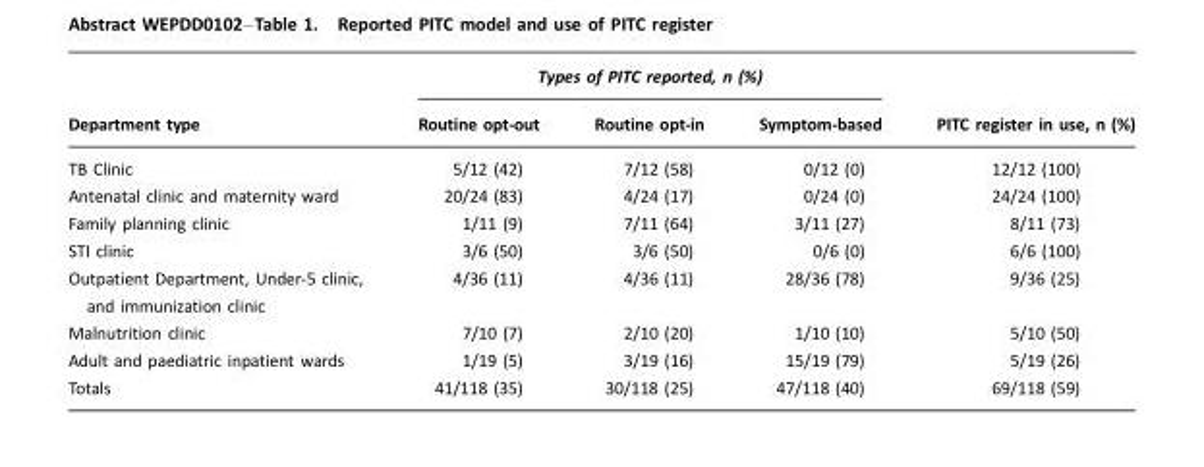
<table><thead><tr><td rowspan="2">Department type</td><td colspan="3">Types of PITC reported, n (%)</td><td rowspan="2">PITC register in use, n (%)</td></tr><tr><td>Routine opt-out</td><td>Routine opt-in</td><td>Symptom-based</td></tr></thead><tbody><tr><td>TB Clinic</td><td>5/12 (42)</td><td>7/12 (58)</td><td>0/12 (0)</td><td>12/12 (100)</td></tr><tr><td>Antenatal clinic and maternity ward</td><td>20/24 (83)</td><td>4/24 (17)</td><td>0/24 (0)</td><td>24/24 (100)</td></tr><tr><td>Family planning clinic</td><td>1/11 (9)</td><td>7/11 (64)</td><td>3/11 (27)</td><td>8/11 (73)</td></tr><tr><td>STI clinic</td><td>3/6 (50)</td><td>3/6 (50)</td><td>0/6 (0)</td><td>6/6 (100)</td></tr><tr><td>Outpatient Department, Under-5 clinic, and immunization clinic</td><td>4/36 (11)</td><td>4/36 (11)</td><td>28/36 (78)</td><td>9/36 (25)</td></tr><tr><td>Malnutrition clinic</td><td>7/10 (7)</td><td>2/10 (20)</td><td>1/10 (10)</td><td>5/10 (50)</td></tr><tr><td>Adult and paediatric inpatient wards</td><td>1/19 (5)</td><td>3/19 (16)</td><td>15/19 (79)</td><td>5/19 (26)</td></tr><tr><td>Totals</td><td>41/118 (35)</td><td>30/118 (25)</td><td>47/118 (40)</td><td>69/118 (59)</td></tr></tbody></table>